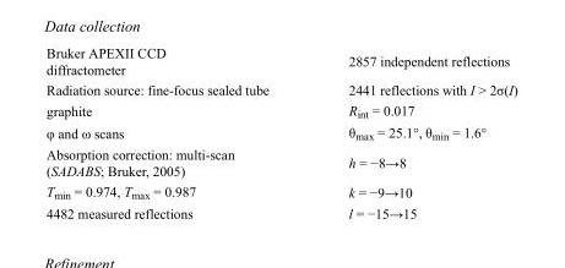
<table><tbody><tr><td>Bruker APEXII CCD diffractometer</td><td>2857 independent reflections</td></tr><tr><td>Radiation source: fine-focus sealed tube</td><td>2441 reflections with I &gt; 2σ(I)</td></tr><tr><td>graphite</td><td>R<sub>int</sub> = 0.017</td></tr><tr><td>φ and ω scans</td><td>θ<sub>max</sub> = 25.1°, θ<sub>min</sub> = 1.6°</td></tr><tr><td>Absorption correction: multi-scan (SADABS; Bruker, 2005)</td><td>h = −8→8</td></tr><tr><td>T<sub>min</sub> = 0.974, T<sub>max</sub> = 0.987</td><td>k = −9→10</td></tr><tr><td>4482 measured reflections</td><td>l = −15→15</td></tr></tbody></table>